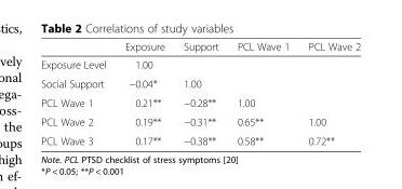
<table><thead><tr><td></td><td>Exposure</td><td>Support</td><td>PCL Wave 1</td><td>PCL Wave 2</td></tr></thead><tbody><tr><td>Exposure Level</td><td>1.00</td><td></td><td></td><td></td></tr><tr><td>Social Support</td><td>−0.04*</td><td>1.00</td><td></td><td></td></tr><tr><td>PCL Wave 1</td><td>0.21**</td><td>−0.28**</td><td>1.00</td><td></td></tr><tr><td>PCL Wave 2</td><td>0.19**</td><td>−0.31**</td><td>0.65**</td><td>1.00</td></tr><tr><td>PCL Wave 3</td><td>0.17**</td><td>−0.38**</td><td>0.58**</td><td>0.72**</td></tr></tbody></table>